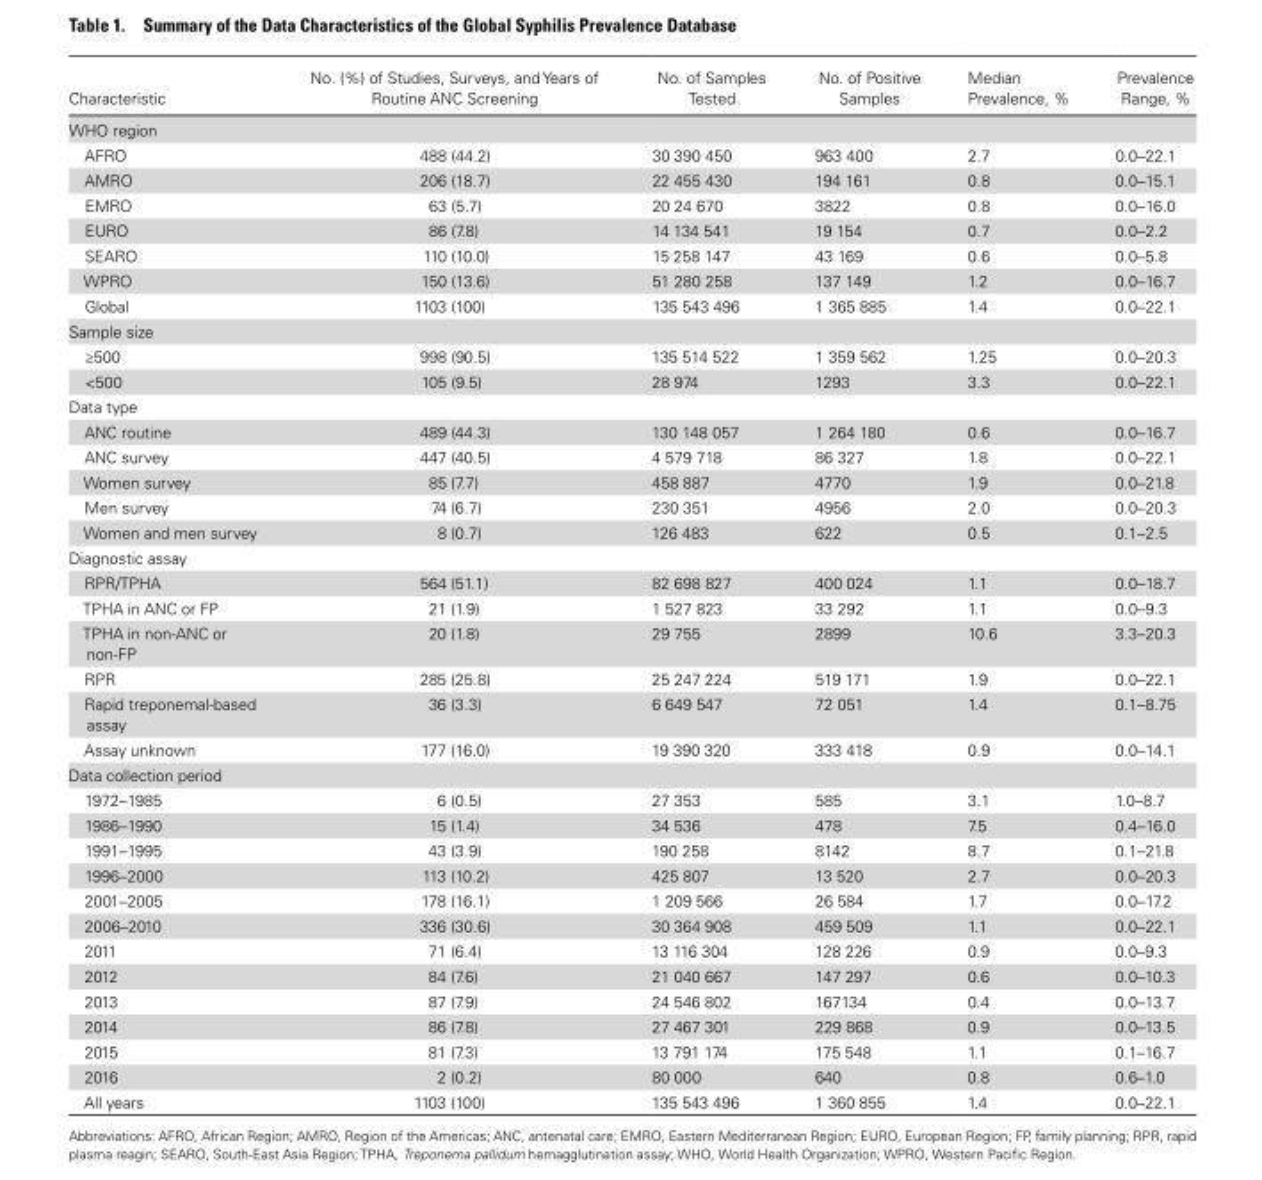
<table><thead><tr><td>Characteristic</td><td>No. (%) of Studies, Surveys, and Years of Routine ANC Screening</td><td>No. of Samples Tested</td><td>No. of Positive Samples</td><td>Median Prevalence, %</td><td>Prevalence Range, %</td></tr></thead><tbody><tr><td colspan="6">WHO region</td></tr><tr><td>AFRO</td><td>488 (44.2)</td><td>30 390 450</td><td>963 400</td><td>2.7</td><td>0.0–22.1</td></tr><tr><td>AMRO</td><td>206 (18.7)</td><td>22 455 430</td><td>194 161</td><td>0.8</td><td>0.0–15.1</td></tr><tr><td>EMRO</td><td>63 (5.7)</td><td>20 24 670</td><td>3822</td><td>0.8</td><td>0.0–16.0</td></tr><tr><td>EURO</td><td>86 (7.8)</td><td>14 134 541</td><td>19 154</td><td>0.7</td><td>0.0–2.2</td></tr><tr><td>SEARO</td><td>110 (10.0)</td><td>15 258 147</td><td>43 169</td><td>0.6</td><td>0.0–5.8</td></tr><tr><td>WPRO</td><td>150 (13.6)</td><td>51 280 258</td><td>137 149</td><td>1.2</td><td>0.0–16.7</td></tr><tr><td>Global</td><td>1103 (100)</td><td>135 543 496</td><td>1 365 885</td><td>1.4</td><td>0.0–22.1</td></tr><tr><td colspan="6">Sample size</td></tr><tr><td>≥500</td><td>998 (90.5)</td><td>135 514 522</td><td>1 359 562</td><td>1.25</td><td>0.0–20.3</td></tr><tr><td>&lt;500</td><td>105 (9.5)</td><td>28 974</td><td>1293</td><td>3.3</td><td>0.0–22.1</td></tr><tr><td colspan="6">Data type</td></tr><tr><td>ANC routine</td><td>489 (44.3)</td><td>130 148 057</td><td>1 264 180</td><td>0.6</td><td>0.0–16.7</td></tr><tr><td>ANC survey</td><td>447 (40.5)</td><td>4 579 718</td><td>86 327</td><td>1.8</td><td>0.0–22.1</td></tr><tr><td>Women survey</td><td>85 (7.7)</td><td>458 887</td><td>4770</td><td>1.9</td><td>0.0–21.8</td></tr><tr><td>Men survey</td><td>74 (6.7)</td><td>230 351</td><td>4956</td><td>2.0</td><td>0.0–20.3</td></tr><tr><td>Women and men survey</td><td>8 (0.7)</td><td>126 483</td><td>622</td><td>0.5</td><td>0.1–2.5</td></tr><tr><td colspan="6">Diagnostic assay</td></tr><tr><td>RPR/TPHA</td><td>564 (51.1)</td><td>82 698 827</td><td>400 024</td><td>1.1</td><td>0.0–18.7</td></tr><tr><td>TPHA in ANC or FP</td><td>21 (1.9)</td><td>1 527 823</td><td>33 292</td><td>1.1</td><td>0.0–9.3</td></tr><tr><td>TPHA in non-ANC or non-FP</td><td>20 (1.8)</td><td>29 755</td><td>2899</td><td>10.6</td><td>3.3–20.3</td></tr><tr><td>RPR</td><td>285 (25.8)</td><td>25 247 224</td><td>519 171</td><td>1.9</td><td>0.0–22.1</td></tr><tr><td>Rapid treponemal-based assay</td><td>36 (3.3)</td><td>6 649 547</td><td>72 051</td><td>1.4</td><td>0.1–8.75</td></tr><tr><td>Assay unknown</td><td>177 (16.0)</td><td>19 390 320</td><td>333 418</td><td>0.9</td><td>0.0–14.1</td></tr><tr><td colspan="6">Data collection period</td></tr><tr><td>1972–1985</td><td>6 (0.5)</td><td>27 353</td><td>585</td><td>3.1</td><td>1.0–8.7</td></tr><tr><td>1986–1990</td><td>15 (1.4)</td><td>34 536</td><td>478</td><td>7.5</td><td>0.4–16.0</td></tr><tr><td>1991–1995</td><td>43 (3.9)</td><td>190 258</td><td>8142</td><td>8.7</td><td>0.1–21.8</td></tr><tr><td>1996–2000</td><td>113 (10.2)</td><td>425 807</td><td>13 520</td><td>2.7</td><td>0.0–20.3</td></tr><tr><td>2001–2005</td><td>178 (16.1)</td><td>1 209 566</td><td>26 584</td><td>1.7</td><td>0.0–17.2</td></tr><tr><td>2006–2010</td><td>336 (30.6)</td><td>30 364 908</td><td>459 509</td><td>1.1</td><td>0.0–22.1</td></tr><tr><td>2011</td><td>71 (6.4)</td><td>13 116 304</td><td>128 226</td><td>0.9</td><td>0.0–9.3</td></tr><tr><td>2012</td><td>84 (7.6)</td><td>21 040 667</td><td>147 297</td><td>0.6</td><td>0.0–10.3</td></tr><tr><td>2013</td><td>87 (7.9)</td><td>24 546 802</td><td>167134</td><td>0.4</td><td>0.0–13.7</td></tr><tr><td>2014</td><td>86 (7.8)</td><td>27 467 301</td><td>229 868</td><td>0.9</td><td>0.0–13.5</td></tr><tr><td>2015</td><td>81 (7.3)</td><td>13 791 174</td><td>175 548</td><td>1.1</td><td>0.1–16.7</td></tr><tr><td>2016</td><td>2 (0.2)</td><td>80 000</td><td>640</td><td>0.8</td><td>0.6–1.0</td></tr><tr><td>All years</td><td>1103 (100)</td><td>135 543 496</td><td>1 360 855</td><td>1.4</td><td>0.0–22.1</td></tr></tbody></table>